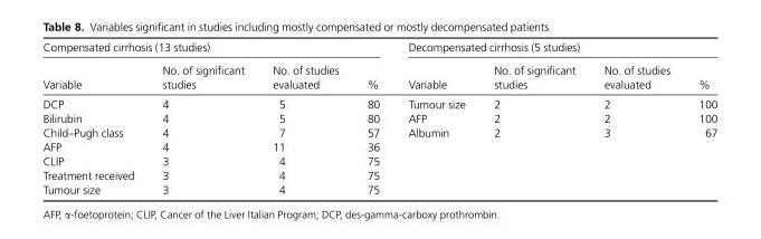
<table><thead><tr><td colspan="4">Compensated cirrhosis (13 studies)</td><td colspan="4">Decompensated cirrhosis (5 studies)</td></tr><tr><td>Variable</td><td>No. of significant studies</td><td>No. of studies evaluated</td><td>%</td><td>Variable</td><td>No. of significant studies</td><td>No. of studies evaluated</td><td>%</td></tr></thead><tbody><tr><td>DCP</td><td>4</td><td>5</td><td>80</td><td>Tumour size</td><td>2</td><td>2</td><td>100</td></tr><tr><td>Bilirubin</td><td>4</td><td>5</td><td>80</td><td>AFP</td><td>2</td><td>2</td><td>100</td></tr><tr><td>Child–Pugh class</td><td>4</td><td>7</td><td>57</td><td>Albumin</td><td>2</td><td>3</td><td>67</td></tr><tr><td>AFP</td><td>4</td><td>11</td><td>36</td><td></td><td></td><td></td><td></td></tr><tr><td>CLIP</td><td>3</td><td>4</td><td>75</td><td></td><td></td><td></td><td></td></tr><tr><td>Treatment received</td><td>3</td><td>4</td><td>75</td><td></td><td></td><td></td><td></td></tr><tr><td>Tumour size</td><td>3</td><td>4</td><td>75</td><td></td><td></td><td></td><td></td></tr></tbody></table>